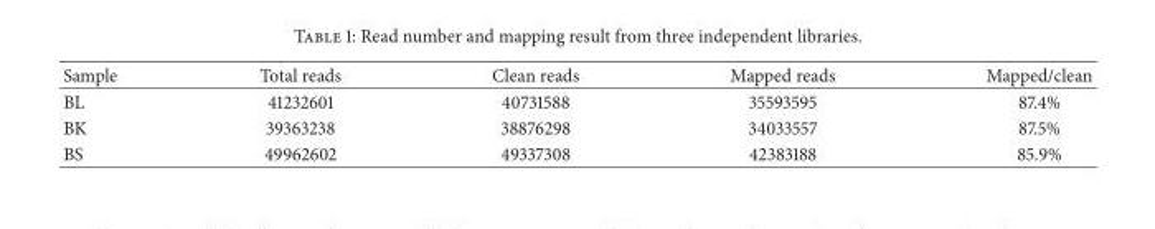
<table><thead><tr><td>Sample</td><td>Total reads</td><td>Clean reads</td><td>Mapped reads</td><td>Mapped/clean</td></tr></thead><tbody><tr><td>BL</td><td>41232601</td><td>40731588</td><td>35593595</td><td>87.4%</td></tr><tr><td>BK</td><td>39363238</td><td>38876298</td><td>34033557</td><td>87.5%</td></tr><tr><td>BS</td><td>49962602</td><td>49337308</td><td>42383188</td><td>85.9%</td></tr></tbody></table>